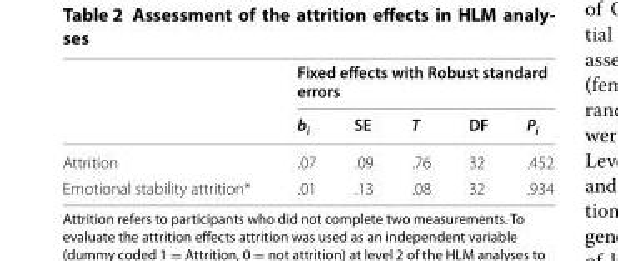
<table><thead><tr><td rowspan="2"></td><td colspan="5">Fixed effects with Robust standard errors</td></tr><tr><td>b<sub>i</sub></td><td>SE</td><td>T</td><td>DF</td><td>P<sub>i</sub></td></tr></thead><tbody><tr><td>Attrition</td><td>.07</td><td>.09</td><td>.76</td><td>32</td><td>.452</td></tr><tr><td>Emotional stability attrition*</td><td>.01</td><td>.13</td><td>.08</td><td>32</td><td>.934</td></tr></tbody></table>